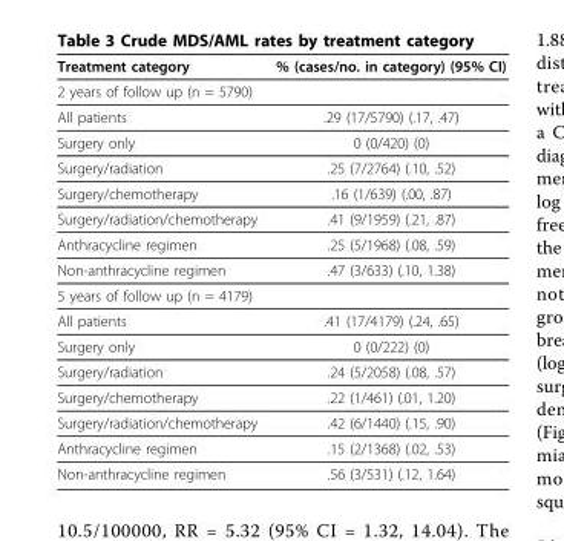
<table><thead><tr><td>Treatment category</td><td>% (cases/no. in category) (95% CI)</td></tr></thead><tbody><tr><td colspan="2">2 years of follow up (n = 5790)</td></tr><tr><td>All patients</td><td>.29 (17/5790) (.17, .47)</td></tr><tr><td>Surgery only</td><td>0 (0/420) (0)</td></tr><tr><td>Surgery/radiation</td><td>.25 (7/2764) (.10, .52)</td></tr><tr><td>Surgery/chemotherapy</td><td>.16 (1/639) (.00, .87)</td></tr><tr><td>Surgery/radiation/chemotherapy</td><td>.41 (9/1959) (.21, .87)</td></tr><tr><td>Anthracycline regimen</td><td>.25 (5/1968) (.08, .59)</td></tr><tr><td>Non-anthracycline regimen</td><td>.47 (3/633) (.10, 1.38)</td></tr><tr><td colspan="2">5 years of follow up (n = 4179)</td></tr><tr><td>All patients</td><td>.41 (17/4179) (.24, .65)</td></tr><tr><td>Surgery only</td><td>0 (0/222) (0)</td></tr><tr><td>Surgery/radiation</td><td>.24 (5/2058) (.08, .57)</td></tr><tr><td>Surgery/chemotherapy</td><td>.22 (1/461) (.01, 1.20)</td></tr><tr><td>Surgery/radiation/chemotherapy</td><td>.42 (6/1440) (.15, .90)</td></tr><tr><td>Anthracycline regimen</td><td>.15 (2/1368) (.02, .53)</td></tr><tr><td>Non-anthracycline regimen</td><td>.56 (3/531) (.12, 1.64)</td></tr></tbody></table>